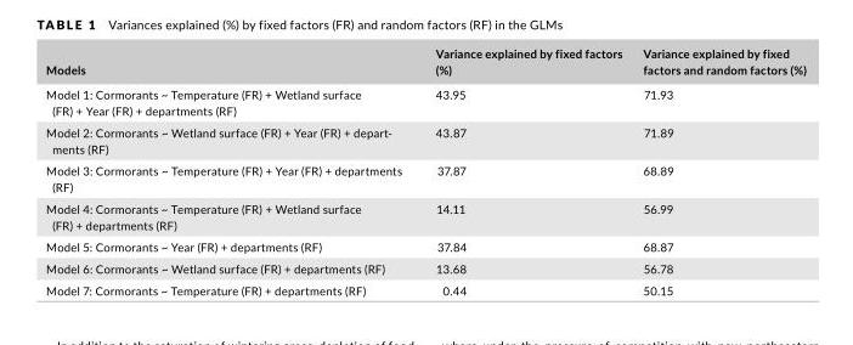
<table><thead><tr><td>Models</td><td>Variance explained by fixed factors (%)</td><td>Variance explained by fixed factors and random factors (%)</td></tr></thead><tbody><tr><td>Model 1: Cormorants ~ Temperature (FR) + Wetland surface (FR) + Year (FR) + departments (RF)</td><td>43.95</td><td>71.93</td></tr><tr><td>Model 2: Cormorants ~ Wetland surface (FR) + Year (FR) + depart- ments (RF)</td><td>43.87</td><td>71.89</td></tr><tr><td>Model 3: Cormorants ~ Temperature (FR) + Year (FR) + departments (RF)</td><td>37.87</td><td>68.89</td></tr><tr><td>Model 4: Cormorants ~ Temperature (FR) + Wetland surface (FR) + departments (RF)</td><td>14.11</td><td>56.99</td></tr><tr><td>Model 5: Cormorants ~ Year (FR) + departments (RF)</td><td>37.84</td><td>68.87</td></tr><tr><td>Model 6: Cormorants ~ Wetland surface (FR) + departments (RF)</td><td>13.68</td><td>56.78</td></tr><tr><td>Model 7: Cormorants ~ Temperature (FR) + departments (RF)</td><td>0.44</td><td>50.15</td></tr></tbody></table>